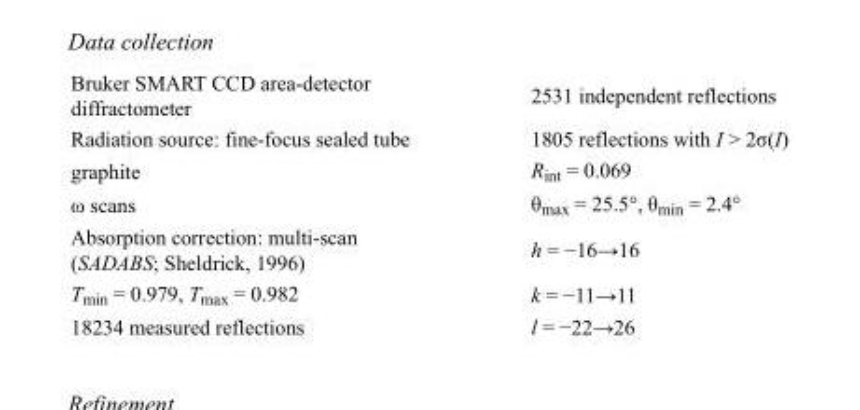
<table><tbody><tr><td>Bruker SMART CCD area-detector diffractometer</td><td>2531 independent reflections</td></tr><tr><td>Radiation source: fine-focus sealed tube</td><td>1805 reflections with I &gt; 2σ(I)</td></tr><tr><td>graphite</td><td>R<sub>int</sub> = 0.069</td></tr><tr><td>ω scans</td><td>θ<sub>max</sub> = 25.5°, θ<sub>min</sub> = 2.4°</td></tr><tr><td>Absorption correction: multi-scan (SADABS; Sheldrick, 1996)</td><td>h = −16→16</td></tr><tr><td>T<sub>min</sub> = 0.979, T<sub>max</sub> = 0.982</td><td>k = −11→11</td></tr><tr><td>18234 measured reflections</td><td>l = −22→26</td></tr></tbody></table>